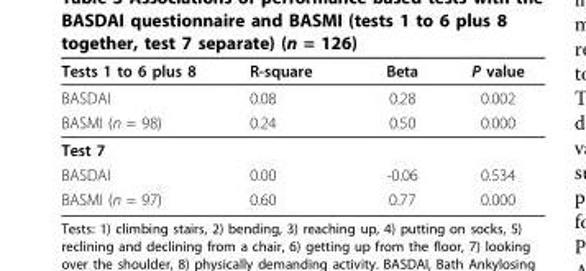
<table><thead><tr><td>Tests 1 to 6 plus 8</td><td>R-square</td><td>Beta</td><td>P value</td></tr></thead><tbody><tr><td>BASDAI</td><td>0.08</td><td>0.28</td><td>0.002</td></tr><tr><td>BASMI (n = 98)</td><td>0.24</td><td>0.50</td><td>0.000</td></tr><tr><td colspan="4">Test 7</td></tr><tr><td>BASDAI</td><td>0.00</td><td>-0.06</td><td>0.534</td></tr><tr><td>BASMI (n = 97)</td><td>0.60</td><td>0.77</td><td>0.000</td></tr></tbody></table>